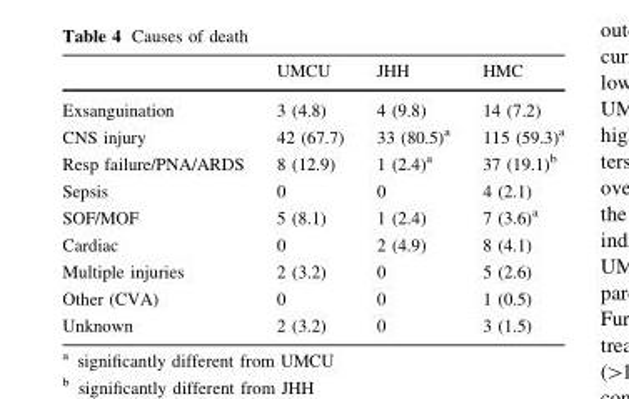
<table><thead><tr><td></td><td>UMCU</td><td>JHH</td><td>HMC</td></tr></thead><tbody><tr><td>Exsanguination</td><td>3 (4.8)</td><td>4 (9.8)</td><td>14 (7.2)</td></tr><tr><td>CNS injury</td><td>42 (67.7)</td><td>33 (80.5)<sup>a</sup></td><td>115 (59.3)<sup>a</sup></td></tr><tr><td>Resp failure/PNA/ARDS</td><td>8 (12.9)</td><td>1 (2.4)<sup>a</sup></td><td>37 (19.1)<sup>b</sup></td></tr><tr><td>Sepsis</td><td>0</td><td>0</td><td>4 (2.1)</td></tr><tr><td>SOF/MOF</td><td>5 (8.1)</td><td>1 (2.4)</td><td>7 (3.6)<sup>a</sup></td></tr><tr><td>Cardiac</td><td>0</td><td>2 (4.9)</td><td>8 (4.1)</td></tr><tr><td>Multiple injuries</td><td>2 (3.2)</td><td>0</td><td>5 (2.6)</td></tr><tr><td>Other (CVA)</td><td>0</td><td>0</td><td>1 (0.5)</td></tr><tr><td>Unknown</td><td>2 (3.2)</td><td>0</td><td>3 (1.5)</td></tr></tbody></table>